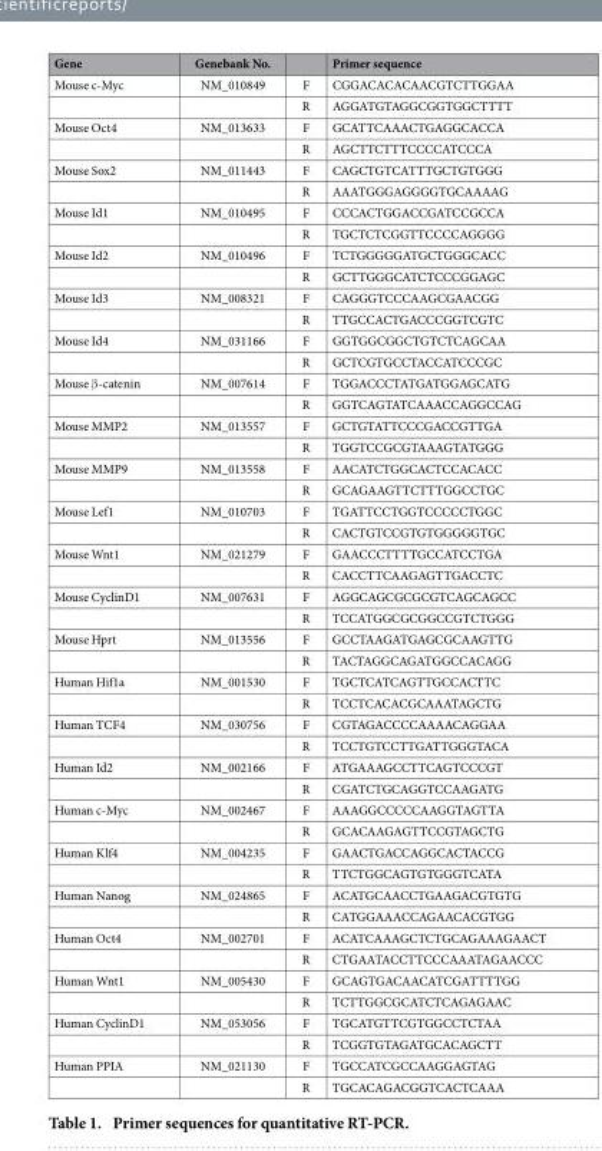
<table><thead><tr><td>Gene</td><td>Genebank No.</td><td></td><td>Primer sequence</td></tr></thead><tbody><tr><td rowspan="2">Mouse c-Myc</td><td>NM_010849</td><td>F</td><td>CGGACACACAACGTCTTGGAA</td></tr><tr><td></td><td>R</td><td>AGGATGTAGGCGGTGGCTTTT</td></tr><tr><td rowspan="2">Mouse Oct4</td><td>NM_013633</td><td>F</td><td>GCATTCAAACTGAGGCACCA</td></tr><tr><td></td><td>R</td><td>AGCTTCTTTCCCCATCCCA</td></tr><tr><td rowspan="2">Mouse Sox2</td><td>NM_011443</td><td>F</td><td>CAGCTGTCATTTGCTGTGGG</td></tr><tr><td></td><td>R</td><td>AAATGGGAGGGGTGCAAAAG</td></tr><tr><td rowspan="2">Mouse Id1</td><td>NM_010495</td><td>F</td><td>CCCACTGGACCGATCCGCCA</td></tr><tr><td></td><td>R</td><td>TGCTCTCGGTTCCCCAGGGG</td></tr><tr><td rowspan="2">Mouse Id2</td><td>NM_010496</td><td>F</td><td>TCTGGGGGATGCTGGGCACC</td></tr><tr><td></td><td>R</td><td>GCTTGGGCATCTCCCGGAGC</td></tr><tr><td rowspan="2">Mouse Id3</td><td>NM_008321</td><td>F</td><td>CAGGGTCCCAAGCGAACGG</td></tr><tr><td></td><td>R</td><td>TTGCCACTGACCCGGTCGTC</td></tr><tr><td rowspan="2">Mouse Id4</td><td>NM_031166</td><td>F</td><td>GGTGGCGGCTGTCTCAGCAA</td></tr><tr><td></td><td>R</td><td>GCTCGTGCCTACCATCCCGC</td></tr><tr><td rowspan="2">Mouse β -catenin</td><td>NM_007614</td><td>F</td><td>TGGACCCTATGATGGAGCATG</td></tr><tr><td></td><td>R</td><td>GGTCAGTATCAAACCAGGCCAG</td></tr><tr><td rowspan="2">Mouse MMP2</td><td>NM_013557</td><td>F</td><td>GCTGTATTCCCGACCGTTGA</td></tr><tr><td></td><td>R</td><td>TGGTCCGCGTAAAGTATGGG</td></tr><tr><td rowspan="2">Mouse MMP9</td><td>NM_013558</td><td>F</td><td>AACATCTGGCACTCCACACC</td></tr><tr><td></td><td>R</td><td>GCAGAAGTTCTTTGGCCTGC</td></tr><tr><td rowspan="2">Mouse Lef1</td><td>NM_010703</td><td>F</td><td>TGATTCCTGGTCCCCCTGGC</td></tr><tr><td></td><td>R</td><td>CACTGTCCGTGTGGGGGTGC</td></tr><tr><td rowspan="2">Mouse Wnt1</td><td>NM_021279</td><td>F</td><td>GAACCCTTTTGCCATCCTGA</td></tr><tr><td></td><td>R</td><td>CACCTTCAAGAGTTGACCTC</td></tr><tr><td rowspan="2">Mouse CyclinD1</td><td>NM_007631</td><td>F</td><td>AGGCAGCGCGCGTCAGCAGCC</td></tr><tr><td></td><td>R</td><td>TCCATGGCGCGGCCGTCTGGG</td></tr><tr><td rowspan="2">Mouse Hprt</td><td>NM_013556</td><td>F</td><td>GCCTAAGATGAGCGCAAGTTG</td></tr><tr><td></td><td>R</td><td>TACTAGGCAGATGGCCACAGG</td></tr><tr><td rowspan="2">Human Hif1a</td><td>NM_001530</td><td>F</td><td>TGCTCATCAGTTGCCACTTC</td></tr><tr><td></td><td>R</td><td>TCCTCACACGCAAATAGCTG</td></tr><tr><td rowspan="2">Human TCF4</td><td>NM_030756</td><td>F</td><td>CGTAGACCCCAAAACAGGAA</td></tr><tr><td></td><td>R</td><td>TCCTGTCCTTGATTGGGTACA</td></tr><tr><td rowspan="2">Human Id2</td><td>NM_002166</td><td>F</td><td>ATGAAAGCCTTCAGTCCCGT</td></tr><tr><td></td><td>R</td><td>CGATCTGCAGGTCCAAGATG</td></tr><tr><td rowspan="2">Human c-Myc</td><td>NM_002467</td><td>F</td><td>AAAGGCCCCCAAGGTAGTTA</td></tr><tr><td></td><td>R</td><td>GCACAAGAGTTCCGTAGCTG</td></tr><tr><td rowspan="2">Human Klf4</td><td>NM_004235</td><td>F</td><td>GAACTGACCAGGCACTACCG</td></tr><tr><td></td><td>R</td><td>TTCTGGCAGTGTGGGTCATA</td></tr><tr><td rowspan="2">Human Nanog</td><td>NM_024865</td><td>F</td><td>ACATGCAACCTGAAGACGTGTG</td></tr><tr><td></td><td>R</td><td>CATGGAAACCAGAACACGTGG</td></tr><tr><td rowspan="2">Human Oct4</td><td>NM_002701</td><td>F</td><td>ACATCAAAGCTCTGCAGAAAGAACT</td></tr><tr><td></td><td>R</td><td>CTGAATACCTTCCCAAATAGAACCC</td></tr><tr><td rowspan="2">Human Wnt1</td><td>NM_005430</td><td>F</td><td>GCAGTGACAACATCGATTTTGG</td></tr><tr><td></td><td>R</td><td>TCTTGGCGCATCTCAGAGAAC</td></tr><tr><td rowspan="2">Human CyclinD1</td><td>NM_053056</td><td>F</td><td>TGCATGTTCGTGGCCTCTAA</td></tr><tr><td></td><td>R</td><td>TCGGTGTAGATGCACAGCTT</td></tr><tr><td rowspan="2">Human PPIA</td><td>NM_021130</td><td>F</td><td>TGCCATCGCCAAGGAGTAG</td></tr><tr><td></td><td>R</td><td>TGCACAGACGGTCACTCAAA</td></tr></tbody></table>